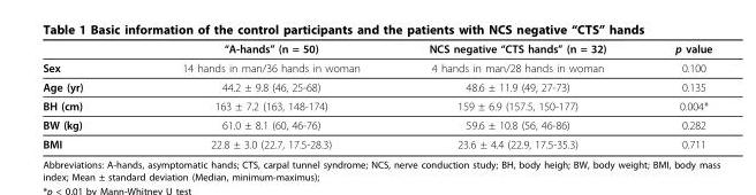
<table><thead><tr><td></td><td>“A-hands” (n = 50)</td><td>NCS negative “CTS hands” (n = 32)</td><td>p value</td></tr></thead><tbody><tr><td>Sex</td><td>14 hands in man/36 hands in woman</td><td>4 hands in man/28 hands in woman</td><td>0.100</td></tr><tr><td>Age (yr)</td><td>44.2 ± 9.8 (46, 25-68)</td><td>48.6 ± 11.9 (49, 27-73)</td><td>0.135</td></tr><tr><td>BH (cm)</td><td>163 ± 7.2 (163, 148-174)</td><td>159 ± 6.9 (157.5, 150-177)</td><td>0.004*</td></tr><tr><td>BW (kg)</td><td>61.0 ± 8.1 (60, 46-76)</td><td>59.6 ± 10.8 (56, 46-86)</td><td>0.282</td></tr><tr><td>BMI</td><td>22.8 ± 3.0 (22.7, 17.5-28.3)</td><td>23.6 ± 4.4 (22.9, 17.5-35.3)</td><td>0.711</td></tr></tbody></table>